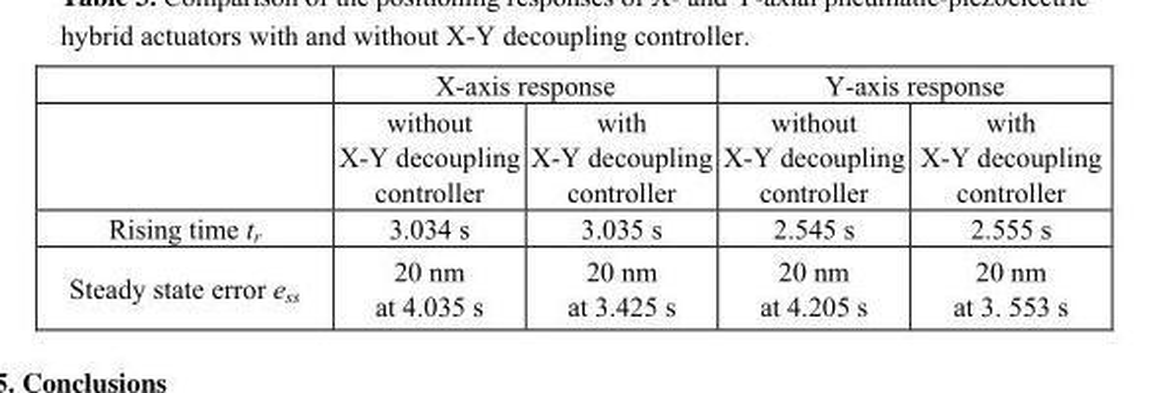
<table><thead><tr><td rowspan="2"></td><td colspan="2">X-axis response</td><td colspan="2">Y-axis response</td></tr><tr><td>without X-Y decoupling controller</td><td>with X-Y decoupling controller</td><td>without X-Y decoupling controller</td><td>with X-Y decoupling controller</td></tr></thead><tbody><tr><td>Rising time t<sub>r</sub></td><td>3.034 s</td><td>3.035 s</td><td>2.545 s</td><td>2.555 s</td></tr><tr><td>Steady state error e<sub>ss</sub></td><td>20 nm at 4.035 s</td><td>20 nm at 3.425 s</td><td>20 nm at 4.205 s</td><td>20 nm at 3. 553 s</td></tr></tbody></table>